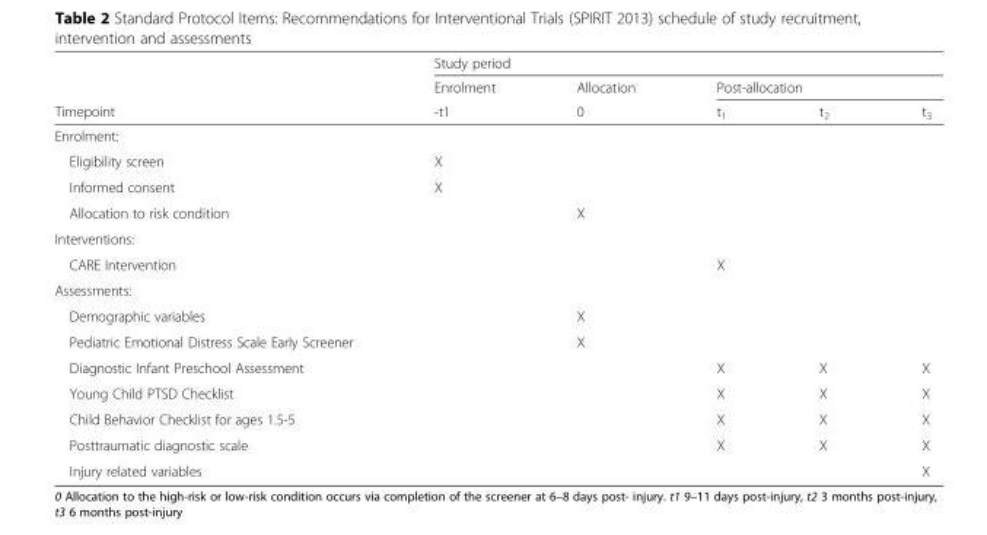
<table><thead><tr><td rowspan="3">Timepoint</td><td colspan="5">Study period</td></tr><tr><td rowspan="2">Enrolment -t1</td><td rowspan="2">Allocation 0</td><td colspan="3">Post-allocation</td></tr><tr><td>t<sub>1</sub></td><td>t<sub>2</sub></td><td>t<sub>3</sub></td></tr></thead><tbody><tr><td colspan="6">Enrolment:</td></tr><tr><td>Eligibility screen</td><td>X</td><td></td><td></td><td></td><td></td></tr><tr><td>Informed consent</td><td>X</td><td></td><td></td><td></td><td></td></tr><tr><td>Allocation to risk condition</td><td></td><td>X</td><td></td><td></td><td></td></tr><tr><td colspan="6">Interventions:</td></tr><tr><td>CARE Intervention</td><td></td><td></td><td>X</td><td></td><td></td></tr><tr><td colspan="6">Assessments:</td></tr><tr><td>Demographic variables</td><td></td><td>X</td><td></td><td></td><td></td></tr><tr><td>Pediatric Emotional Distress Scale Early Screener</td><td></td><td>X</td><td></td><td></td><td></td></tr><tr><td>Diagnostic Infant Preschool Assessment</td><td></td><td></td><td>X</td><td>X</td><td>X</td></tr><tr><td>Young Child PTSD Checklist</td><td></td><td></td><td>X</td><td>X</td><td>X</td></tr><tr><td>Child Behavior Checklist for ages 1.5-5</td><td></td><td></td><td>X</td><td>X</td><td>X</td></tr><tr><td>Posttraumatic diagnostic scale</td><td></td><td></td><td>X</td><td>X</td><td>X</td></tr><tr><td>Injury related variables</td><td></td><td></td><td></td><td></td><td>X</td></tr></tbody></table>